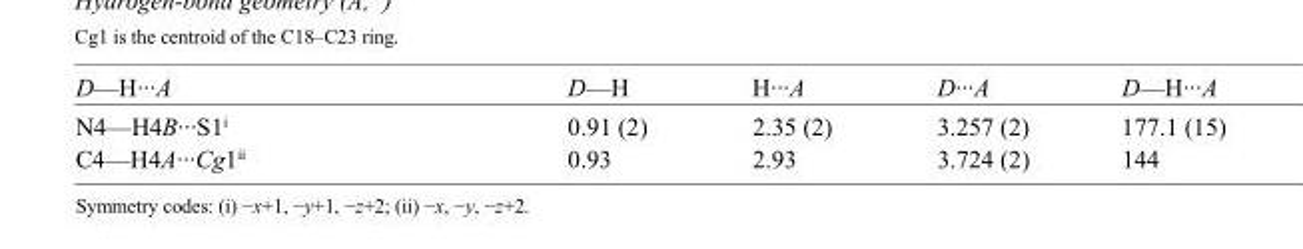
<table><tbody><tr><td>D—H···A</td><td>D—H</td><td>H···A</td><td>D···A</td><td>D—H···A</td></tr><tr><td>N4—H4B···S1<sup>i</sup></td><td>0.91 (2)</td><td>2.35 (2)</td><td>3.257 (2)</td><td>177.1 (15)</td></tr><tr><td>C4—H4A···Cg1<sup>ii</sup></td><td>0.93</td><td>2.93</td><td>3.724 (2)</td><td>144</td></tr></tbody></table>